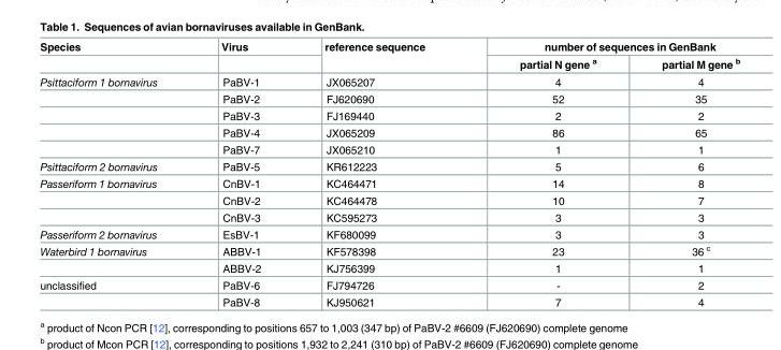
<table><thead><tr><td rowspan="2">Species</td><td rowspan="2">Virus</td><td rowspan="2">reference sequence</td><td colspan="2">number of sequences in GenBank</td></tr><tr><td>partial N gene <sup>a</sup></td><td>partial M gene <sup>b</sup></td></tr></thead><tbody><tr><td rowspan="5">Psittaciform 1 bornavirus</td><td>PaBV-1</td><td>JX065207</td><td>4</td><td>4</td></tr><tr><td>PaBV-2</td><td>FJ620690</td><td>52</td><td>35</td></tr><tr><td>PaBV-3</td><td>FJ169440</td><td>2</td><td>2</td></tr><tr><td>PaBV-4</td><td>JX065209</td><td>86</td><td>65</td></tr><tr><td>PaBV-7</td><td>JX065210</td><td>1</td><td>1</td></tr><tr><td>Psittaciform 2 bornavirus</td><td>PaBV-5</td><td>KR612223</td><td>5</td><td>6</td></tr><tr><td rowspan="3">Passeriform 1 bornavirus</td><td>CnBV-1</td><td>KC464471</td><td>14</td><td>8</td></tr><tr><td>CnBV-2</td><td>KC464478</td><td>10</td><td>7</td></tr><tr><td>CnBV-3</td><td>KC595273</td><td>3</td><td>3</td></tr><tr><td>Passeriform 2 bornavirus</td><td>EsBV-1</td><td>KF680099</td><td>3</td><td>3</td></tr><tr><td rowspan="2">Waterbird 1 bornavirus</td><td>ABBV-1</td><td>KF578398</td><td>23</td><td>36 <sup>c</sup></td></tr><tr><td>ABBV-2</td><td>KJ756399</td><td>1</td><td>1</td></tr><tr><td rowspan="2">unclassified</td><td>PaBV-6</td><td>FJ794726</td><td>-</td><td>2</td></tr><tr><td>PaBV-8</td><td>KJ950621</td><td>7</td><td>4</td></tr></tbody></table>